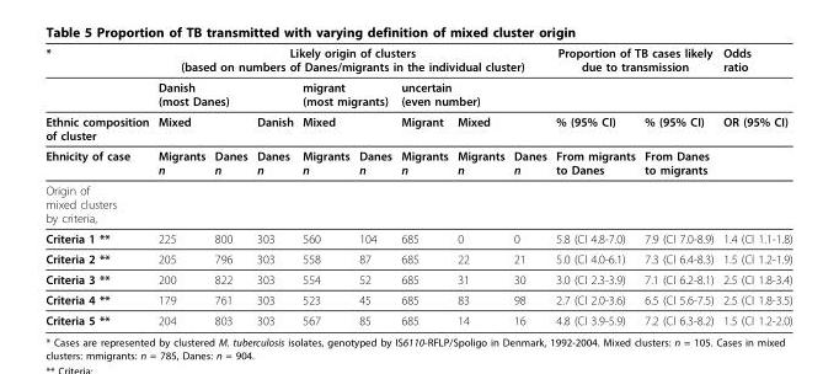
<table><thead><tr><td rowspan="4">* Ethnic composition of cluster Ehnicity of case</td><td colspan="8">Likely origin of clusters (based on numbers of Danes/migrants in the individual cluster)</td><td colspan="2">Proportion of TB cases likely due to transmission</td><td rowspan="4">Odds ratio OR (95% CI)</td></tr><tr><td colspan="3">Danish (most Danes)</td><td rowspan="2" colspan="2">migrant (most migrants) Mixed</td><td colspan="3">uncertain (even number)</td><td rowspan="3">% (95% CI) From migrants to Danes</td><td rowspan="3">% (95% CI) From Danes to migrants</td></tr><tr><td colspan="2">Mixed</td><td rowspan="2">Danish Danes n</td><td rowspan="2">Migrant Migrants n</td><td colspan="2">Mixed</td></tr><tr><td>Migrants n</td><td>Danes n</td><td>Migrants n</td><td>Danes n</td><td>Migrants n</td><td>Danes n</td></tr></thead><tbody><tr><td colspan="12">Origin of mixed clusters by criteria,</td></tr><tr><td>Criteria 1 **</td><td>225</td><td>800</td><td>303</td><td>560</td><td>104</td><td>685</td><td>0</td><td>0</td><td>5.8 (CI 4.8-7.0)</td><td>7.9 (CI 7.0-8.9)</td><td>1.4 (CI 1.1-1.8)</td></tr><tr><td>Criteria 2 **</td><td>205</td><td>796</td><td>303</td><td>558</td><td>87</td><td>685</td><td>22</td><td>21</td><td>5.0 (CI 4.0-6.1)</td><td>7.3 (CI 6.4-8.3)</td><td>1.5 (CI 1.2-1.9)</td></tr><tr><td>Criteria 3 **</td><td>200</td><td>822</td><td>303</td><td>554</td><td>52</td><td>685</td><td>31</td><td>30</td><td>3.0 (CI 2.3-3.9)</td><td>7.1 (CI 6.2-8.1)</td><td>2.5 (CI 1.8-3.4)</td></tr><tr><td>Criteria 4 **</td><td>179</td><td>761</td><td>303</td><td>523</td><td>45</td><td>685</td><td>83</td><td>98</td><td>2.7 (CI 2.0-3.6)</td><td>6.5 (CI 5.6-7.5)</td><td>2.5 (CI 1.8-3.5)</td></tr><tr><td>Criteria 5 **</td><td>204</td><td>803</td><td>303</td><td>567</td><td>85</td><td>685</td><td>14</td><td>16</td><td>4.8 (CI 3.9-5.9)</td><td>7.2 (CI 6.3-8.2)</td><td>1.5 (CI 1.2-2.0)</td></tr></tbody></table>